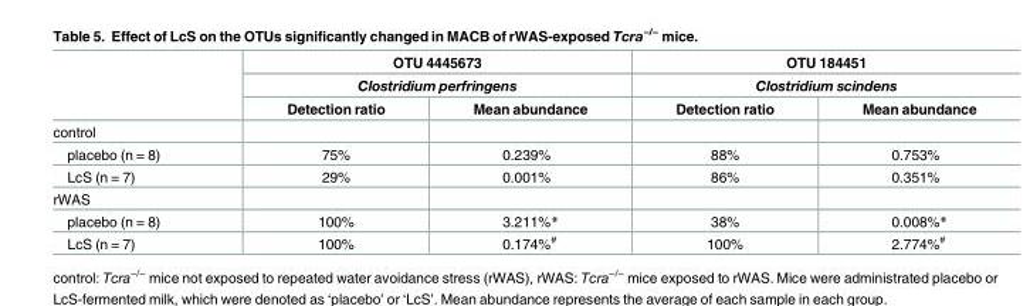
<table><thead><tr><td rowspan="3"></td><td rowspan="2" colspan="2">OTU 4445673 Clostridium perfringens</td><td rowspan="2" colspan="2">OTU 184451 Clostridium scindens</td></tr><tr></tr><tr><td>Detection ratio</td><td>Mean abundance</td><td>Detection ratio</td><td>Mean abundance</td></tr></thead><tbody><tr><td colspan="5">control</td></tr><tr><td>placebo (n = 8)</td><td>75%</td><td>0.239%</td><td>88%</td><td>0.753%</td></tr><tr><td>LcS (n = 7)</td><td>29%</td><td>0.001%</td><td>86%</td><td>0.351%</td></tr><tr><td colspan="5">rWAS</td></tr><tr><td>placebo (n = 8)</td><td>100%</td><td>3.211%*</td><td>38%</td><td>0.008%*</td></tr><tr><td>LcS (n = 7)</td><td>100%</td><td>0.174%<sup>#</sup></td><td>100%</td><td>2.774%<sup>#</sup></td></tr></tbody></table>